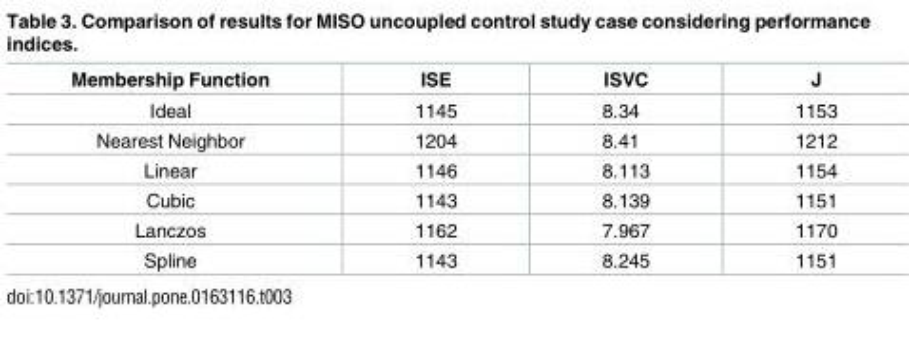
<table><thead><tr><td>Membership Function</td><td>ISE</td><td>ISVC</td><td>J</td></tr></thead><tbody><tr><td>Ideal</td><td>1145</td><td>8.34</td><td>1153</td></tr><tr><td>Nearest Neighbor</td><td>1204</td><td>8.41</td><td>1212</td></tr><tr><td>Linear</td><td>1146</td><td>8.113</td><td>1154</td></tr><tr><td>Cubic</td><td>1143</td><td>8.139</td><td>1151</td></tr><tr><td>Lanczos</td><td>1162</td><td>7.967</td><td>1170</td></tr><tr><td>Spline</td><td>1143</td><td>8.245</td><td>1151</td></tr></tbody></table>